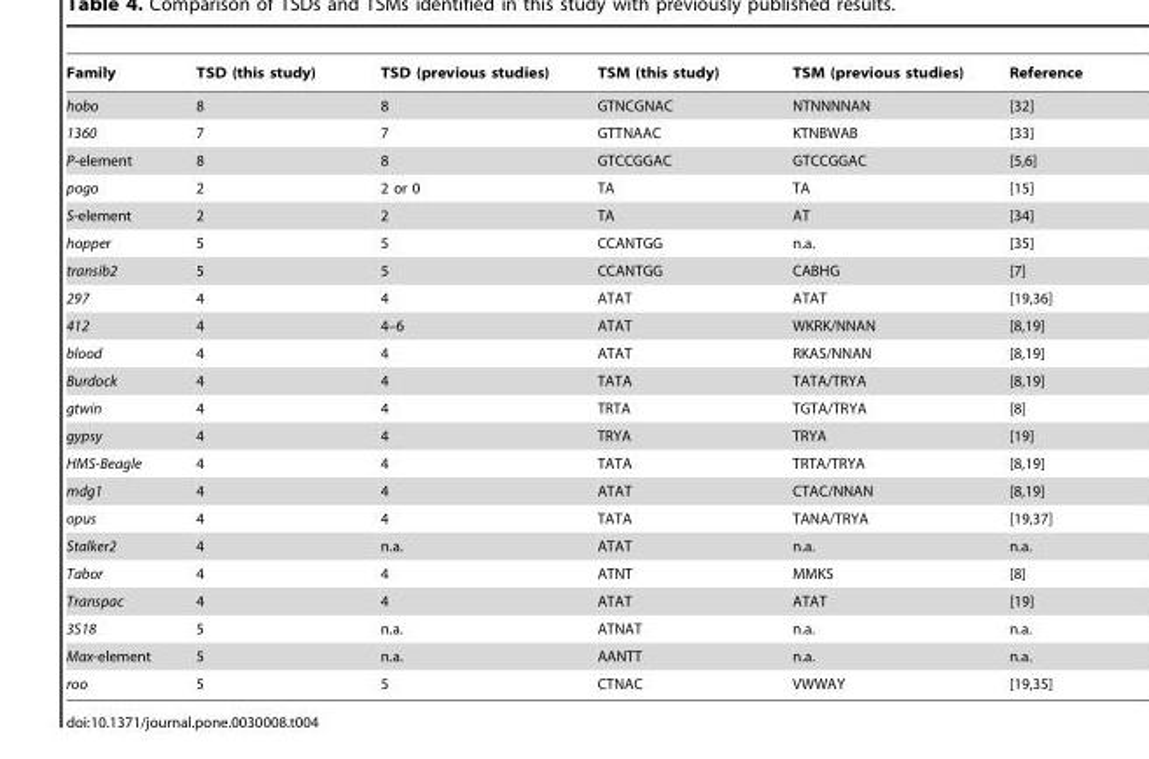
<table><thead><tr><td>Family</td><td>TSD (this study)</td><td>TSD (previous studies)</td><td>TSM (this study)</td><td>TSM (previous studies)</td><td>Reference</td></tr></thead><tbody><tr><td>hobo</td><td>8</td><td>8</td><td>GTNCGNAC</td><td>NTNNNNAN</td><td>[32]</td></tr><tr><td>1360</td><td>7</td><td>7</td><td>GTTNAAC</td><td>KTNBWAB</td><td>[33]</td></tr><tr><td>P-element</td><td>8</td><td>8</td><td>GTCCGGAC</td><td>GTCCGGAC</td><td>[5,6]</td></tr><tr><td>pogo</td><td>2</td><td>2 or 0</td><td>TA</td><td>TA</td><td>[15]</td></tr><tr><td>S-element</td><td>2</td><td>2</td><td>TA</td><td>AT</td><td>[34]</td></tr><tr><td>hopper</td><td>5</td><td>5</td><td>CCANTGG</td><td>n.a.</td><td>[35]</td></tr><tr><td>transib2</td><td>5</td><td>5</td><td>CCANTGG</td><td>CABHG</td><td>[7]</td></tr><tr><td>297</td><td>4</td><td>4</td><td>ATAT</td><td>ATAT</td><td>[19,36]</td></tr><tr><td>412</td><td>4</td><td>4–6</td><td>ATAT</td><td>WKRK/NNAN</td><td>[8,19]</td></tr><tr><td>blood</td><td>4</td><td>4</td><td>ATAT</td><td>RKAS/NNAN</td><td>[8,19]</td></tr><tr><td>Burdock</td><td>4</td><td>4</td><td>TATA</td><td>TATA/TRYA</td><td>[8,19]</td></tr><tr><td>gtwin</td><td>4</td><td>4</td><td>TRTA</td><td>TGTA/TRYA</td><td>[8]</td></tr><tr><td>gypsy</td><td>4</td><td>4</td><td>TRYA</td><td>TRYA</td><td>[19]</td></tr><tr><td>HMS-Beagle</td><td>4</td><td>4</td><td>TATA</td><td>TRTA/TRYA</td><td>[8,19]</td></tr><tr><td>mdg1</td><td>4</td><td>4</td><td>ATAT</td><td>CTAC/NNAN</td><td>[8,19]</td></tr><tr><td>opus</td><td>4</td><td>4</td><td>TATA</td><td>TANA/TRYA</td><td>[19,37]</td></tr><tr><td>Stalker2</td><td>4</td><td>n.a.</td><td>ATAT</td><td>n.a.</td><td>n.a.</td></tr><tr><td>Tabor</td><td>4</td><td>4</td><td>ATNT</td><td>MMKS</td><td>[8]</td></tr><tr><td>Transpac</td><td>4</td><td>4</td><td>ATAT</td><td>ATAT</td><td>[19]</td></tr><tr><td>3S18</td><td>5</td><td>n.a.</td><td>ATNAT</td><td>n.a.</td><td>n.a.</td></tr><tr><td>Max-element</td><td>5</td><td>n.a.</td><td>AANTT</td><td>n.a.</td><td>n.a.</td></tr><tr><td>roo</td><td>5</td><td>5</td><td>CTNAC</td><td>VWWAY</td><td>[19,35]</td></tr></tbody></table>